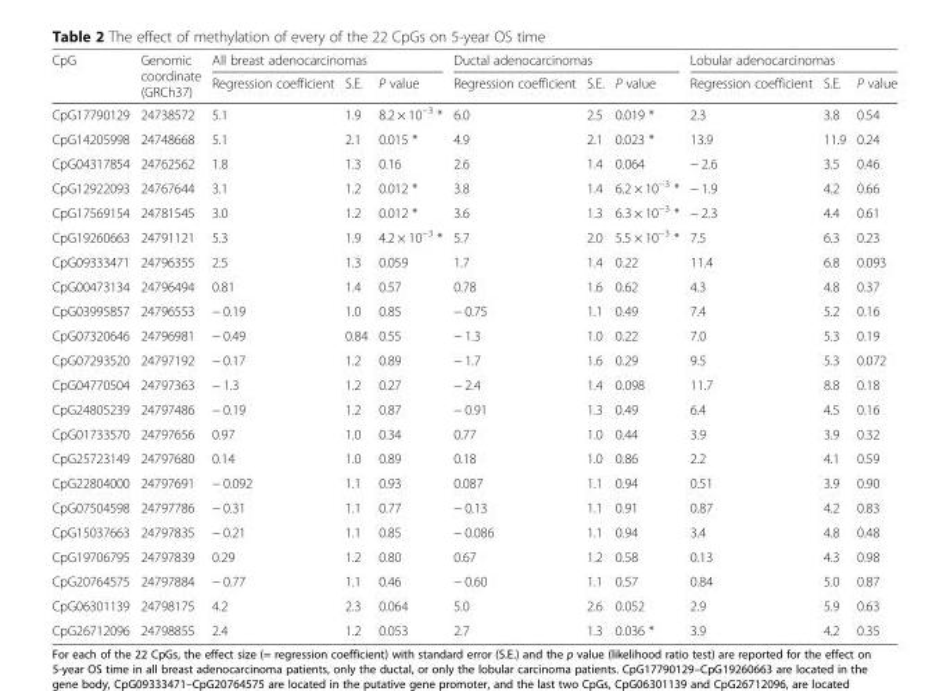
<table><thead><tr><td rowspan="2">CpG</td><td rowspan="2">Genomic coordinate (GRCh37)</td><td colspan="3">All breast adenocarcinomas</td><td colspan="3">Ductal adenocarcinomas</td><td colspan="3">Lobular adenocarcinomas</td></tr><tr><td>Regression coefficient</td><td>S.E.</td><td>P value</td><td>Regression coefficient</td><td>S.E.</td><td>P value</td><td>Regression coefficient</td><td>S.E.</td><td>P value</td></tr></thead><tbody><tr><td>CpG17790129</td><td>24738572</td><td>5.1</td><td>1.9</td><td>8.2 × 10<sup>−3</sup> *</td><td>6.0</td><td>2.5</td><td>0.019 *</td><td>2.3</td><td>3.8</td><td>0.54</td></tr><tr><td>CpG14205998</td><td>24748668</td><td>5.1</td><td>2.1</td><td>0.015 *</td><td>4.9</td><td>2.1</td><td>0.023 *</td><td>13.9</td><td>11.9</td><td>0.24</td></tr><tr><td>CpG04317854</td><td>24762562</td><td>1.8</td><td>1.3</td><td>0.16</td><td>2.6</td><td>1.4</td><td>0.064</td><td>− 2.6</td><td>3.5</td><td>0.46</td></tr><tr><td>CpG12922093</td><td>24767644</td><td>3.1</td><td>1.2</td><td>0.012 *</td><td>3.8</td><td>1.4</td><td>6.2 × 10<sup>−3</sup> *</td><td>− 1.9</td><td>4.2</td><td>0.66</td></tr><tr><td>CpG17569154</td><td>24781545</td><td>3.0</td><td>1.2</td><td>0.012 *</td><td>3.6</td><td>1.3</td><td>6.3 × 10<sup>−3</sup> *</td><td>− 2.3</td><td>4.4</td><td>0.61</td></tr><tr><td>CpG19260663</td><td>24791121</td><td>5.3</td><td>1.9</td><td>4.2 × 10<sup>−3</sup> *</td><td>5.7</td><td>2.0</td><td>5.5 × 10<sup>−3</sup> *</td><td>7.5</td><td>6.3</td><td>0.23</td></tr><tr><td>CpG09333471</td><td>24796355</td><td>2.5</td><td>1.3</td><td>0.059</td><td>1.7</td><td>1.4</td><td>0.22</td><td>11.4</td><td>6.8</td><td>0.093</td></tr><tr><td>CpG00473134</td><td>24796494</td><td>0.81</td><td>1.4</td><td>0.57</td><td>0.78</td><td>1.6</td><td>0.62</td><td>4.3</td><td>4.8</td><td>0.37</td></tr><tr><td>CpG03995857</td><td>24796553</td><td>− 0.19</td><td>1.0</td><td>0.85</td><td>− 0.75</td><td>1.1</td><td>0.49</td><td>7.4</td><td>5.2</td><td>0.16</td></tr><tr><td>CpG07320646</td><td>24796981</td><td>− 0.49</td><td>0.84</td><td>0.55</td><td>− 1.3</td><td>1.0</td><td>0.22</td><td>7.0</td><td>5.3</td><td>0.19</td></tr><tr><td>CpG07293520</td><td>24797192</td><td>− 0.17</td><td>1.2</td><td>0.89</td><td>− 1.7</td><td>1.6</td><td>0.29</td><td>9.5</td><td>5.3</td><td>0.072</td></tr><tr><td>CpG04770504</td><td>24797363</td><td>− 1.3</td><td>1.2</td><td>0.27</td><td>− 2.4</td><td>1.4</td><td>0.098</td><td>11.7</td><td>8.8</td><td>0.18</td></tr><tr><td>CpG24805239</td><td>24797486</td><td>− 0.19</td><td>1.2</td><td>0.87</td><td>− 0.91</td><td>1.3</td><td>0.49</td><td>6.4</td><td>4.5</td><td>0.16</td></tr><tr><td>CpG01733570</td><td>24797656</td><td>0.97</td><td>1.0</td><td>0.34</td><td>0.77</td><td>1.0</td><td>0.44</td><td>3.9</td><td>3.9</td><td>0.32</td></tr><tr><td>CpG25723149</td><td>24797680</td><td>0.14</td><td>1.0</td><td>0.89</td><td>0.18</td><td>1.0</td><td>0.86</td><td>2.2</td><td>4.1</td><td>0.59</td></tr><tr><td>CpG22804000</td><td>24797691</td><td>− 0.092</td><td>1.1</td><td>0.93</td><td>0.087</td><td>1.1</td><td>0.94</td><td>0.51</td><td>3.9</td><td>0.90</td></tr><tr><td>CpG07504598</td><td>24797786</td><td>− 0.31</td><td>1.1</td><td>0.77</td><td>− 0.13</td><td>1.1</td><td>0.91</td><td>0.87</td><td>4.2</td><td>0.83</td></tr><tr><td>CpG15037663</td><td>24797835</td><td>− 0.21</td><td>1.1</td><td>0.85</td><td>− 0.086</td><td>1.1</td><td>0.94</td><td>3.4</td><td>4.8</td><td>0.48</td></tr><tr><td>CpG19706795</td><td>24797839</td><td>0.29</td><td>1.2</td><td>0.80</td><td>0.67</td><td>1.2</td><td>0.58</td><td>0.13</td><td>4.3</td><td>0.98</td></tr><tr><td>CpG20764575</td><td>24797884</td><td>− 0.77</td><td>1.1</td><td>0.46</td><td>− 0.60</td><td>1.1</td><td>0.57</td><td>0.84</td><td>5.0</td><td>0.87</td></tr><tr><td>CpG06301139</td><td>24798175</td><td>4.2</td><td>2.3</td><td>0.064</td><td>5.0</td><td>2.6</td><td>0.052</td><td>2.9</td><td>5.9</td><td>0.63</td></tr><tr><td>CpG26712096</td><td>24798855</td><td>2.4</td><td>1.2</td><td>0.053</td><td>2.7</td><td>1.3</td><td>0.036 *</td><td>3.9</td><td>4.2</td><td>0.35</td></tr></tbody></table>